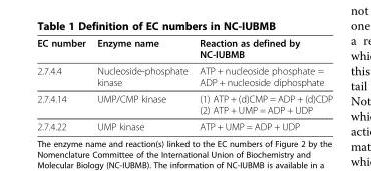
<table><thead><tr><td>EC number</td><td>Enzyme name</td><td>Reaction as defined by NC-IUBMB</td></tr></thead><tbody><tr><td rowspan="2">2.7.4.4</td><td rowspan="2">Nucleoside-phosphate kinase</td><td>ATP + nucleoside phosphate =</td></tr><tr><td>ADP + nucleoside diphosphate</td></tr><tr><td rowspan="2">2.7.4.14</td><td rowspan="2">UMP/CMP kinase</td><td>(1) ATP + (d)CMP = ADP + (d)CDP</td></tr><tr><td>(2) ATP + UMP = ADP + UDP</td></tr><tr><td>2.7.4.22</td><td>UMP kinase</td><td>ATP + UMP = ADP + UDP</td></tr></tbody></table>